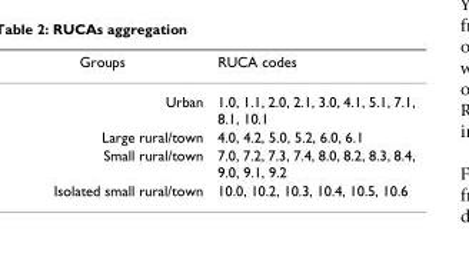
<table><thead><tr><td>Groups</td><td>RUCA codes</td></tr></thead><tbody><tr><td>Urban</td><td>1.0, 1.1, 2.0, 2.1, 3.0, 4.1, 5.1, 7.1, 8.1, 10.1</td></tr><tr><td>Large rural/town</td><td>4.0, 4.2, 5.0, 5.2, 6.0, 6.1</td></tr><tr><td>Small rural/town</td><td>7.0, 7.2, 7.3, 7.4, 8.0, 8.2, 8.3, 8.4, 9.0, 9.1, 9.2</td></tr><tr><td>Isolated small rural/town</td><td>10.0, 10.2, 10.3, 10.4, 10.5, 10.6</td></tr></tbody></table>